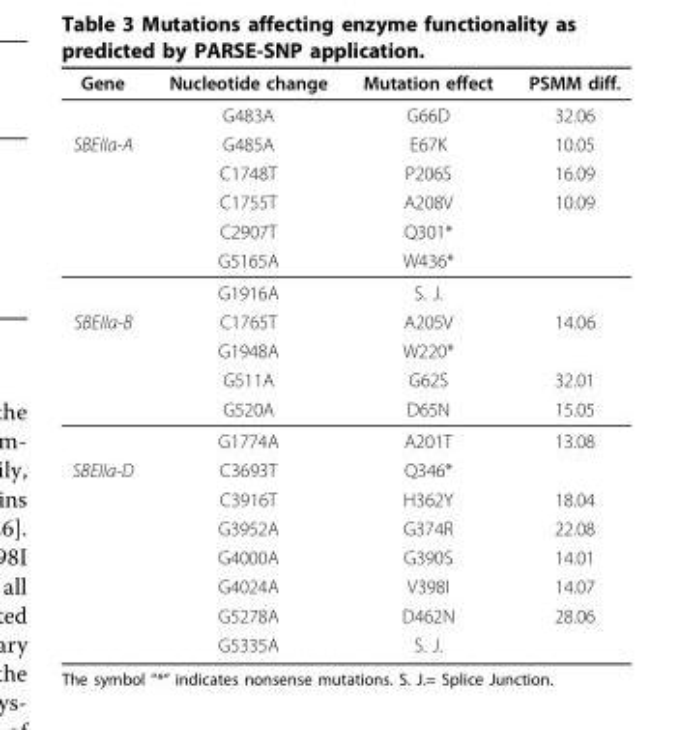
<table><thead><tr><td>Gene</td><td>Nucleotide change</td><td>Mutation effect</td><td>PSMM diff.</td></tr></thead><tbody><tr><td></td><td>G483A</td><td>G66D</td><td>32.06</td></tr><tr><td rowspan="6">SBEIIa-A</td><td>G485A</td><td>E67K</td><td>10.05</td></tr><tr><td>C1748T</td><td>P206S</td><td>16.09</td></tr><tr><td>C1755T</td><td>A208V</td><td>10.09</td></tr><tr><td>C2907T</td><td>Q301*</td><td></td></tr><tr><td>G5165A</td><td>W436*</td><td></td></tr><tr><td>G1916A</td><td>S. J.</td><td></td></tr><tr><td rowspan="5">SBEIIa-B</td><td>C1765T</td><td>A205V</td><td>14.06</td></tr><tr><td>G1948A</td><td>W220*</td><td></td></tr><tr><td>G511A</td><td>G62S</td><td>32.01</td></tr><tr><td>G520A</td><td>D65N</td><td>15.05</td></tr><tr><td>G1774A</td><td>A201T</td><td>13.08</td></tr><tr><td rowspan="7">SBEIIa-D</td><td>C3693T</td><td>Q346*</td><td></td></tr><tr><td>C3916T</td><td>H362Y</td><td>18.04</td></tr><tr><td>G3952A</td><td>G374R</td><td>22.08</td></tr><tr><td>G4000A</td><td>G390S</td><td>14.01</td></tr><tr><td>G4024A</td><td>V398I</td><td>14.07</td></tr><tr><td>G5278A</td><td>D462N</td><td>28.06</td></tr><tr><td>G5335A</td><td>S. J.</td><td></td></tr></tbody></table>